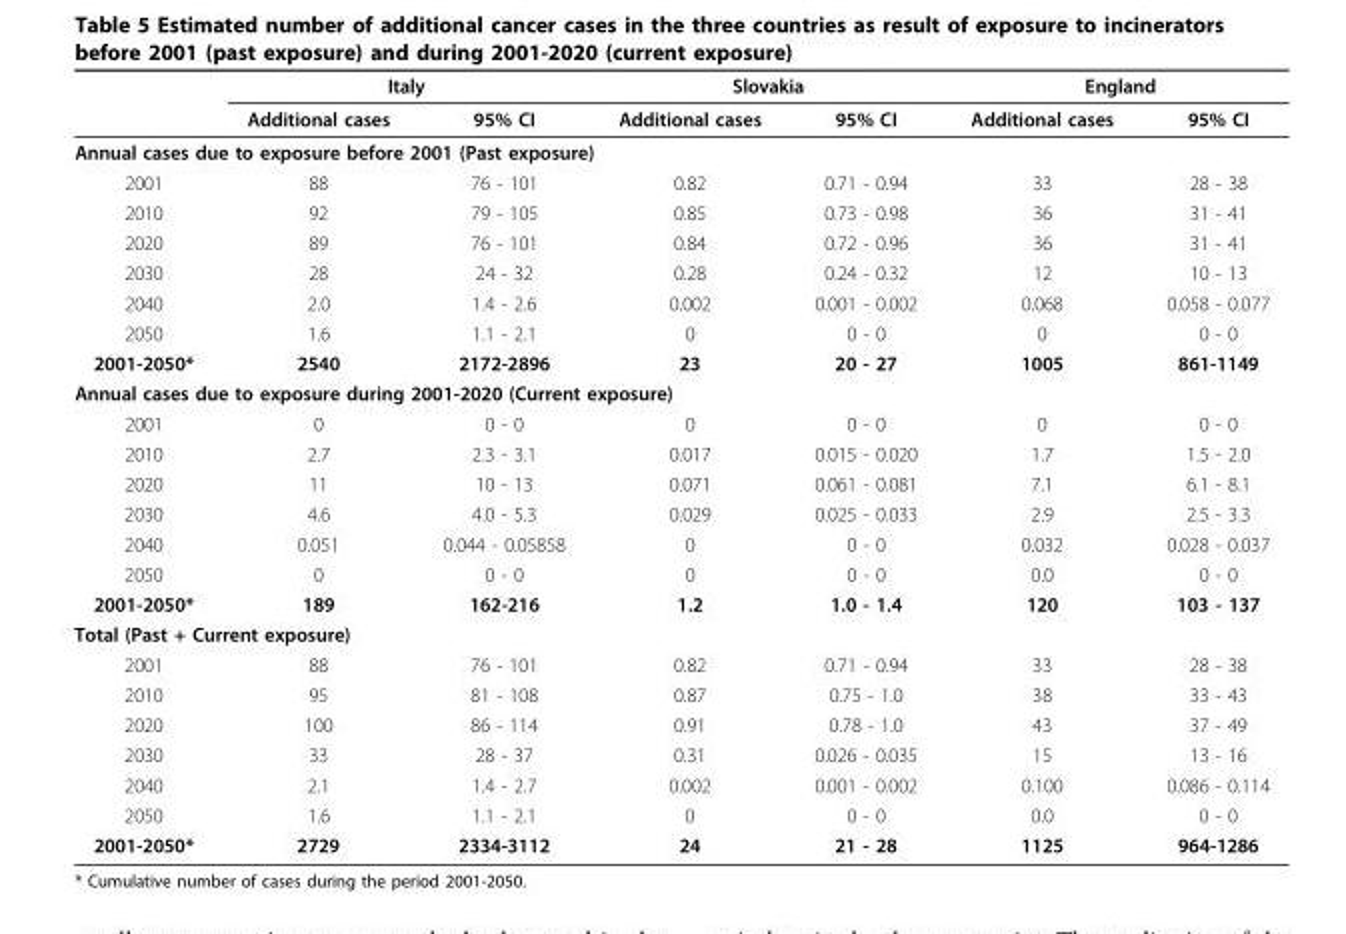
<table><thead><tr><td rowspan="2"></td><td colspan="2">Italy</td><td colspan="2">Slovakia</td><td colspan="2">England</td></tr><tr><td>Additional cases</td><td>95% CI</td><td>Additional cases</td><td>95% CI</td><td>Additional cases</td><td>95% CI</td></tr></thead><tbody><tr><td colspan="7">Annual cases due to exposure before 2001 (Past exposure)</td></tr><tr><td>2001</td><td>88</td><td>76 - 101</td><td>0.82</td><td>0.71 - 0.94</td><td>33</td><td>28 - 38</td></tr><tr><td>2010</td><td>92</td><td>79 - 105</td><td>0.85</td><td>0.73 - 0.98</td><td>36</td><td>31 - 41</td></tr><tr><td>2020</td><td>89</td><td>76 - 101</td><td>0.84</td><td>0.72 - 0.96</td><td>36</td><td>31 - 41</td></tr><tr><td>2030</td><td>28</td><td>24 - 32</td><td>0.28</td><td>0.24 - 0.32</td><td>12</td><td>10 - 13</td></tr><tr><td>2040</td><td>2.0</td><td>1.4 - 2.6</td><td>0.002</td><td>0.001 - 0.002</td><td>0.068</td><td>0.058 - 0.077</td></tr><tr><td>2050</td><td>1.6</td><td>1.1 - 2.1</td><td>0</td><td>0 - 0</td><td>0</td><td>0 - 0</td></tr><tr><td>2001-2050*</td><td>2540</td><td>2172-2896</td><td>23</td><td>20 - 27</td><td>1005</td><td>861-1149</td></tr><tr><td colspan="7">Annual cases due to exposure during 2001-2020 (Current exposure)</td></tr><tr><td>2001</td><td>0</td><td>0 - 0</td><td>0</td><td>0 - 0</td><td>0</td><td>0 - 0</td></tr><tr><td>2010</td><td>2.7</td><td>2.3 - 3.1</td><td>0.017</td><td>0.015 - 0.020</td><td>1.7</td><td>1.5 - 2.0</td></tr><tr><td>2020</td><td>11</td><td>10 - 13</td><td>0.071</td><td>0.061 - 0.081</td><td>7.1</td><td>6.1 - 8.1</td></tr><tr><td>2030</td><td>4.6</td><td>4.0 - 5.3</td><td>0.029</td><td>0.025 - 0.033</td><td>2.9</td><td>2.5 - 3.3</td></tr><tr><td>2040</td><td>0.051</td><td>0.044 - 0.05858</td><td>0</td><td>0 - 0</td><td>0.032</td><td>0.028 - 0.037</td></tr><tr><td>2050</td><td>0</td><td>0 - 0</td><td>0</td><td>0 - 0</td><td>0.0</td><td>0 - 0</td></tr><tr><td>2001-2050*</td><td>189</td><td>162-216</td><td>1.2</td><td>1.0 - 1.4</td><td>120</td><td>103 - 137</td></tr><tr><td colspan="7">Total (Past + Current exposure)</td></tr><tr><td>2001</td><td>88</td><td>76 - 101</td><td>0.82</td><td>0.71 - 0.94</td><td>33</td><td>28 - 38</td></tr><tr><td>2010</td><td>95</td><td>81 - 108</td><td>0.87</td><td>0.75 - 1.0</td><td>38</td><td>33 - 43</td></tr><tr><td>2020</td><td>100</td><td>86 - 114</td><td>0.91</td><td>0.78 - 1.0</td><td>43</td><td>37 - 49</td></tr><tr><td>2030</td><td>33</td><td>28 - 37</td><td>0.31</td><td>0.026 - 0.035</td><td>15</td><td>13 - 16</td></tr><tr><td>2040</td><td>2.1</td><td>1.4 - 2.7</td><td>0.002</td><td>0.001 - 0.002</td><td>0.100</td><td>0.086 - 0.114</td></tr><tr><td>2050</td><td>1.6</td><td>1.1 - 2.1</td><td>0</td><td>0 - 0</td><td>0.0</td><td>0 - 0</td></tr><tr><td>2001-2050*</td><td>2729</td><td>2334-3112</td><td>24</td><td>21 - 28</td><td>1125</td><td>964-1286</td></tr></tbody></table>